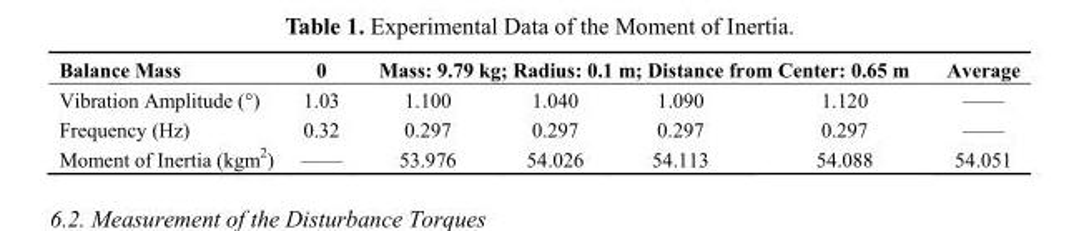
<table><thead><tr><td rowspan="2">Balance Mass Vibration Amplitude (°)</td><td rowspan="2">0 1.03</td><td colspan="4">Mass: 9.79 kg; Radius: 0.1 m; Distance from Center: 0.65 m</td><td rowspan="2">Average ——</td></tr><tr><td>1.100</td><td>1.040</td><td>1.090</td><td>1.120</td></tr></thead><tbody><tr><td>Frequency (Hz)</td><td>0.32</td><td>0.297</td><td>0.297</td><td>0.297</td><td>0.297</td><td>——</td></tr><tr><td>Moment of Inertia (kgm<sup>2</sup>)</td><td>——</td><td>53.976</td><td>54.026</td><td>54.113</td><td>54.088</td><td>54.051</td></tr></tbody></table>